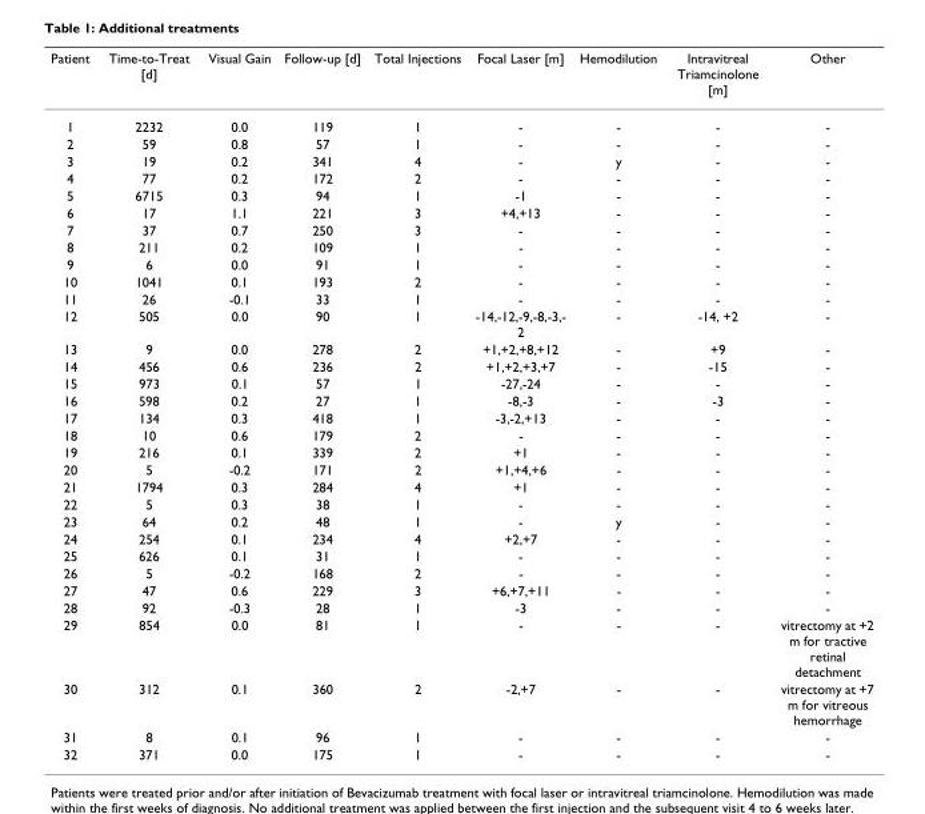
<table><thead><tr><td>Patient</td><td>Time-to-Treat [d]</td><td>Visual Gain</td><td>Follow-up [d]</td><td>Total Injections</td><td>Focal Laser [m]</td><td>Hemodilution</td><td>Intravitreal Triamcinolone [m]</td><td>Other</td></tr></thead><tbody><tr><td>1</td><td>2232</td><td>0.0</td><td>119</td><td>1</td><td>-</td><td>-</td><td>-</td><td>-</td></tr><tr><td>2</td><td>59</td><td>0.8</td><td>57</td><td>1</td><td>-</td><td>-</td><td>-</td><td>-</td></tr><tr><td>3</td><td>19</td><td>0.2</td><td>341</td><td>4</td><td>-</td><td>y</td><td>-</td><td>-</td></tr><tr><td>4</td><td>77</td><td>0.2</td><td>172</td><td>2</td><td>-</td><td>-</td><td>-</td><td>-</td></tr><tr><td>5</td><td>6715</td><td>0.3</td><td>94</td><td>1</td><td>-1</td><td>-</td><td>-</td><td>-</td></tr><tr><td>6</td><td>17</td><td>1.1</td><td>221</td><td>3</td><td>+4,+13</td><td>-</td><td>-</td><td>-</td></tr><tr><td>7</td><td>37</td><td>0.7</td><td>250</td><td>3</td><td>-</td><td>-</td><td>-</td><td>-</td></tr><tr><td>8</td><td>211</td><td>0.2</td><td>109</td><td>1</td><td>-</td><td>-</td><td>-</td><td>-</td></tr><tr><td>9</td><td>6</td><td>0.0</td><td>91</td><td>1</td><td>-</td><td>-</td><td>-</td><td>-</td></tr><tr><td>10</td><td>1041</td><td>0.1</td><td>193</td><td>2</td><td>-</td><td>-</td><td>-</td><td>-</td></tr><tr><td>11</td><td>26</td><td>-0.1</td><td>33</td><td>1</td><td>-</td><td>-</td><td>-</td><td>-</td></tr><tr><td>12</td><td>505</td><td>0.0</td><td>90</td><td>1</td><td>-14,-12,-9,-8,-3,- 2</td><td>-</td><td>-14, +2</td><td>-</td></tr><tr><td>13</td><td>9</td><td>0.0</td><td>278</td><td>2</td><td>+1,+2,+8,+12</td><td>-</td><td>+9</td><td>-</td></tr><tr><td>14</td><td>456</td><td>0.6</td><td>236</td><td>2</td><td>+1,+2,+3,+7</td><td>-</td><td>-15</td><td>-</td></tr><tr><td>15</td><td>973</td><td>0.1</td><td>57</td><td>1</td><td>-27,-24</td><td>-</td><td>-</td><td>-</td></tr><tr><td>16</td><td>598</td><td>0.2</td><td>27</td><td>1</td><td>-8,-3</td><td>-</td><td>-3</td><td>-</td></tr><tr><td>17</td><td>134</td><td>0.3</td><td>418</td><td>1</td><td>-3,-2,+13</td><td>-</td><td>-</td><td>-</td></tr><tr><td>18</td><td>10</td><td>0.6</td><td>179</td><td>2</td><td>-</td><td>-</td><td>-</td><td>-</td></tr><tr><td>19</td><td>216</td><td>0.1</td><td>339</td><td>2</td><td>+1</td><td>-</td><td>-</td><td>-</td></tr><tr><td>20</td><td>5</td><td>-0.2</td><td>171</td><td>2</td><td>+1,+4,+6</td><td>-</td><td>-</td><td>-</td></tr><tr><td>21</td><td>1794</td><td>0.3</td><td>284</td><td>4</td><td>+1</td><td>-</td><td>-</td><td>-</td></tr><tr><td>22</td><td>5</td><td>0.3</td><td>38</td><td>1</td><td>-</td><td>-</td><td>-</td><td>-</td></tr><tr><td>23</td><td>64</td><td>0.2</td><td>48</td><td>1</td><td>-</td><td>y</td><td>-</td><td>-</td></tr><tr><td>24</td><td>254</td><td>0.1</td><td>234</td><td>4</td><td>+2,+7</td><td>-</td><td>-</td><td>-</td></tr><tr><td>25</td><td>626</td><td>0.1</td><td>31</td><td>1</td><td>-</td><td>-</td><td>-</td><td>-</td></tr><tr><td>26</td><td>5</td><td>-0.2</td><td>168</td><td>2</td><td>-</td><td>-</td><td>-</td><td>-</td></tr><tr><td>27</td><td>47</td><td>0.6</td><td>229</td><td>3</td><td>+6,+7,+11</td><td>-</td><td>-</td><td>-</td></tr><tr><td>28</td><td>92</td><td>-0.3</td><td>28</td><td>1</td><td>-3</td><td>-</td><td>-</td><td>-</td></tr><tr><td>29</td><td>854</td><td>0.0</td><td>81</td><td>1</td><td>-</td><td>-</td><td>-</td><td>vitrectomy at +2 m for tractive retinal detachment</td></tr><tr><td>30</td><td>312</td><td>0.1</td><td>360</td><td>2</td><td>-2,+7</td><td>-</td><td>-</td><td>vitrectomy at +7 m for vitreous hemorrhage</td></tr><tr><td>31</td><td>8</td><td>0.1</td><td>96</td><td>1</td><td>-</td><td>-</td><td>-</td><td>-</td></tr><tr><td>32</td><td>371</td><td>0.0</td><td>175</td><td>1</td><td>-</td><td>-</td><td>-</td><td>-</td></tr></tbody></table>